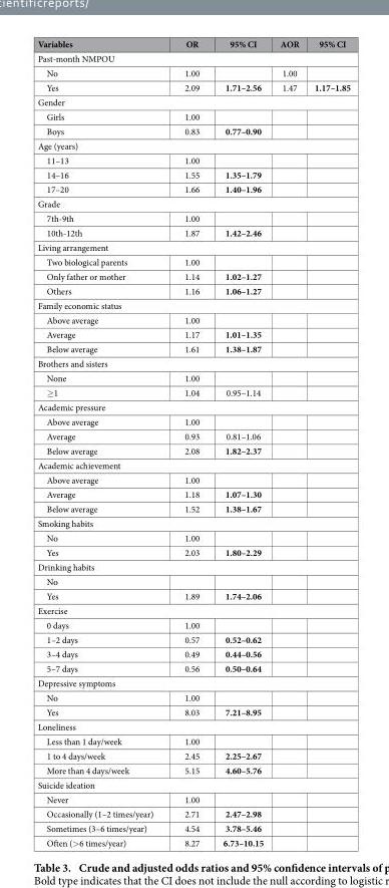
<table><thead><tr><td>Variables</td><td>OR</td><td>95% CI</td><td>AOR</td><td>95% CI</td></tr></thead><tbody><tr><td colspan="5">Past-month NMPOU</td></tr><tr><td>No</td><td>1.00</td><td></td><td>1.00</td><td></td></tr><tr><td>Yes</td><td>2.09</td><td>1.71–2.56</td><td>1.47</td><td>1.17–1.85</td></tr><tr><td colspan="5">Gender</td></tr><tr><td>Girls</td><td>1.00</td><td></td><td></td><td></td></tr><tr><td>Boys</td><td>0.83</td><td>0.77–0.90</td><td></td><td></td></tr><tr><td colspan="5">Age (years)</td></tr><tr><td>11–13</td><td>1.00</td><td></td><td></td><td></td></tr><tr><td>14–16</td><td>1.55</td><td>1.35–1.79</td><td></td><td></td></tr><tr><td>17–20</td><td>1.66</td><td>1.40–1.96</td><td></td><td></td></tr><tr><td colspan="5">Grade</td></tr><tr><td>7th-9th</td><td>1.00</td><td></td><td></td><td></td></tr><tr><td>10th-12th</td><td>1.87</td><td>1.42–2.46</td><td></td><td></td></tr><tr><td colspan="5">Living arrangement</td></tr><tr><td>Two biological parents</td><td>1.00</td><td></td><td></td><td></td></tr><tr><td>Only father or mother</td><td>1.14</td><td>1.02–1.27</td><td></td><td></td></tr><tr><td>Others</td><td>1.16</td><td>1.06–1.27</td><td></td><td></td></tr><tr><td colspan="5">Family economic status</td></tr><tr><td>Above average</td><td>1.00</td><td></td><td></td><td></td></tr><tr><td>Average</td><td>1.17</td><td>1.01–1.35</td><td></td><td></td></tr><tr><td>Below average</td><td>1.61</td><td>1.38–1.87</td><td></td><td></td></tr><tr><td colspan="5">Brothers and sisters</td></tr><tr><td>None</td><td>1.00</td><td></td><td></td><td></td></tr><tr><td>≥ 1</td><td>1.04</td><td>0.95–1.14</td><td></td><td></td></tr><tr><td colspan="5">Academic pressure</td></tr><tr><td>Above average</td><td>1.00</td><td></td><td></td><td></td></tr><tr><td>Average</td><td>0.93</td><td>0.81–1.06</td><td></td><td></td></tr><tr><td>Below average</td><td>2.08</td><td>1.82–2.37</td><td></td><td></td></tr><tr><td colspan="5">Academic achievement</td></tr><tr><td>Above average</td><td>1.00</td><td></td><td></td><td></td></tr><tr><td>Average</td><td>1.18</td><td>1.07–1.30</td><td></td><td></td></tr><tr><td>Below average</td><td>1.52</td><td>1.38–1.67</td><td></td><td></td></tr><tr><td colspan="5">Smoking habits</td></tr><tr><td>No</td><td>1.00</td><td></td><td></td><td></td></tr><tr><td>Yes</td><td>2.03</td><td>1.80–2.29</td><td></td><td></td></tr><tr><td colspan="5">Drinking habits</td></tr><tr><td colspan="5">No</td></tr><tr><td>Yes</td><td>1.89</td><td>1.74–2.06</td><td></td><td></td></tr><tr><td colspan="5">Exercise</td></tr><tr><td>0 days</td><td>1.00</td><td></td><td></td><td></td></tr><tr><td>1–2 days</td><td>0.57</td><td>0.52–0.62</td><td></td><td></td></tr><tr><td>3–4 days</td><td>0.49</td><td>0.44–0.56</td><td></td><td></td></tr><tr><td>5–7 days</td><td>0.56</td><td>0.50–0.64</td><td></td><td></td></tr><tr><td colspan="5">Depressive symptoms</td></tr><tr><td>No</td><td>1.00</td><td></td><td></td><td></td></tr><tr><td>Yes</td><td>8.03</td><td>7.21–8.95</td><td></td><td></td></tr><tr><td colspan="5">Loneliness</td></tr><tr><td>Less than 1 day/week</td><td>1.00</td><td></td><td></td><td></td></tr><tr><td>1 to 4 days/week</td><td>2.45</td><td>2.25–2.67</td><td></td><td></td></tr><tr><td>More than 4 days/week</td><td>5.15</td><td>4.60–5.76</td><td></td><td></td></tr><tr><td colspan="5">Suicide ideation</td></tr><tr><td>Never</td><td>1.00</td><td></td><td></td><td></td></tr><tr><td>Occasionally (1–2 times/year)</td><td>2.71</td><td>2.47–2.98</td><td></td><td></td></tr><tr><td>Sometimes (3–6 times/year)</td><td>4.54</td><td>3.78–5.46</td><td></td><td></td></tr><tr><td>Often (&gt; 6 times/year)</td><td>8.27</td><td>6.73–10.15</td><td></td><td></td></tr></tbody></table>